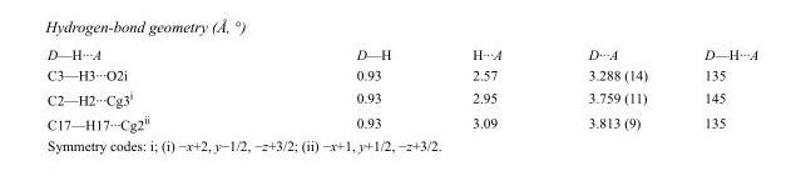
<table><tbody><tr><td>D—H···A</td><td>D—H</td><td>H···A</td><td>D···A</td><td>D—H···A</td></tr><tr><td>C3—H3···O2i</td><td>0.93</td><td>2.57</td><td>3.288 (14)</td><td>135</td></tr><tr><td>C2—H2···Cg3<sup>i</sup></td><td>0.93</td><td>2.95</td><td>3.759 (11)</td><td>145</td></tr><tr><td>C17—H17···Cg2<sup>ii</sup></td><td>0.93</td><td>3.09</td><td>3.813 (9)</td><td>135</td></tr></tbody></table>